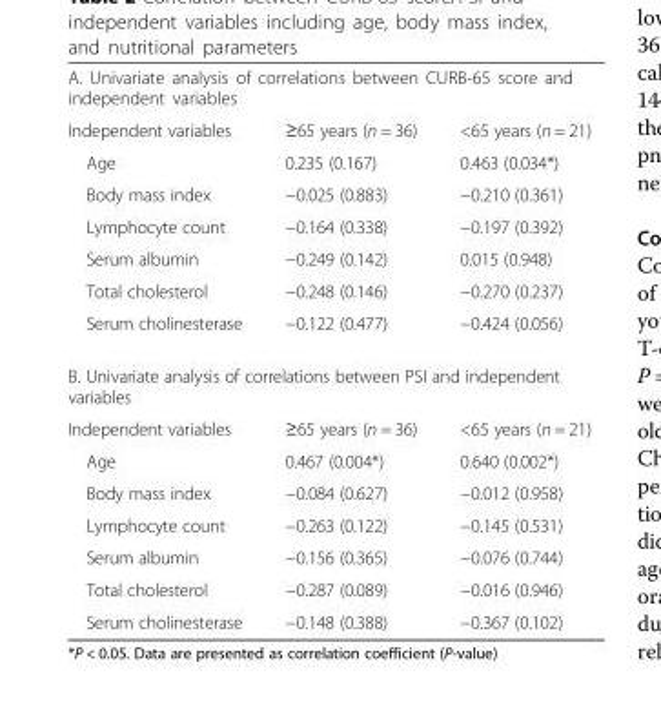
<table><tbody><tr><td colspan="3">A. Univariate analysis of correlations between CURB-65 score and independent variables</td></tr><tr><td>Independent variables</td><td>≥65 years (n = 36)</td><td>&lt;65 years (n = 21)</td></tr><tr><td>Age</td><td>0.235 (0.167)</td><td>0.463 (0.034*)</td></tr><tr><td>Body mass index</td><td>−0.025 (0.883)</td><td>−0.210 (0.361)</td></tr><tr><td>Lymphocyte count</td><td>−0.164 (0.338)</td><td>−0.197 (0.392)</td></tr><tr><td>Serum albumin</td><td>−0.249 (0.142)</td><td>0.015 (0.948)</td></tr><tr><td>Total cholesterol</td><td>−0.248 (0.146)</td><td>−0.270 (0.237)</td></tr><tr><td>Serum cholinesterase</td><td>−0.122 (0.477)</td><td>−0.424 (0.056)</td></tr><tr><td colspan="3">B. Univariate analysis of correlations between PSI and independent variables</td></tr><tr><td>Independent variables</td><td>≥65 years (n = 36)</td><td>&lt;65 years (n = 21)</td></tr><tr><td>Age</td><td>0.467 (0.004*)</td><td>0.640 (0.002*)</td></tr><tr><td>Body mass index</td><td>−0.084 (0.627)</td><td>−0.012 (0.958)</td></tr><tr><td>Lymphocyte count</td><td>−0.263 (0.122)</td><td>−0.145 (0.531)</td></tr><tr><td>Serum albumin</td><td>−0.156 (0.365)</td><td>−0.076 (0.744)</td></tr><tr><td>Total cholesterol</td><td>−0.287 (0.089)</td><td>−0.016 (0.946)</td></tr><tr><td>Serum cholinesterase</td><td>−0.148 (0.388)</td><td>−0.367 (0.102)</td></tr></tbody></table>